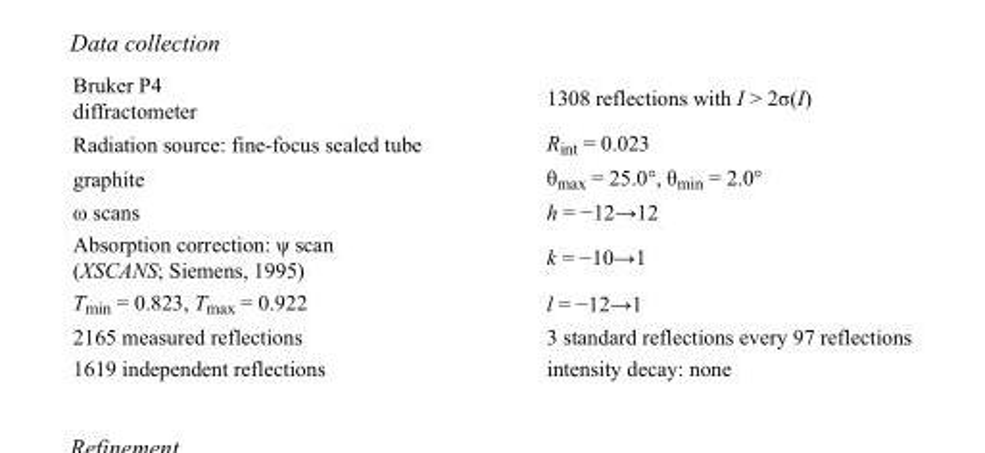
<table><tbody><tr><td>Bruker P4 diffractometer</td><td>1308 reflections with I &gt; 2σ(I)</td></tr><tr><td>Radiation source: fine-focus sealed tube</td><td>R<sub>int</sub> = 0.023</td></tr><tr><td>graphite</td><td>θ<sub>max</sub> = 25.0°, θ<sub>min</sub> = 2.0°</td></tr><tr><td>ω scans</td><td>h = −12→12</td></tr><tr><td>Absorption correction: ψ scan (XSCANS; Siemens, 1995)</td><td>k = −10→1</td></tr><tr><td>T<sub>min</sub> = 0.823, T<sub>max</sub> = 0.922</td><td>l = −12→1</td></tr><tr><td>2165 measured reflections</td><td>3 standard reflections every 97 reflections</td></tr><tr><td>1619 independent reflections</td><td>intensity decay: none</td></tr></tbody></table>